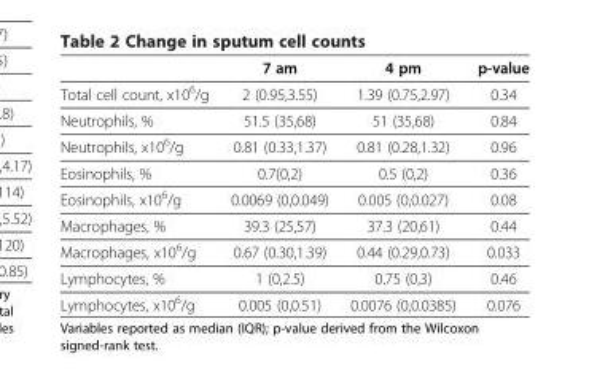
<table><thead><tr><td></td><td>7 am</td><td>4 pm</td><td>p-value</td></tr></thead><tbody><tr><td>Total cell count, x10<sup>6</sup>/g</td><td>2 (0.95,3.55)</td><td>1.39 (0.75,2.97)</td><td>0.34</td></tr><tr><td>Neutrophils, %</td><td>51.5 (35,68)</td><td>51 (35,68)</td><td>0.84</td></tr><tr><td>Neutrophils, x10<sup>6</sup>/g</td><td>0.81 (0.33,1.37)</td><td>0.81 (0.28,1.32)</td><td>0.96</td></tr><tr><td>Eosinophils, %</td><td>0.7(0,2)</td><td>0.5 (0,2)</td><td>0.36</td></tr><tr><td>Eosinophils, x10<sup>6</sup>/g</td><td>0.0069 (0,0.049)</td><td>0.005 (0,0.027)</td><td>0.08</td></tr><tr><td>Macrophages, %</td><td>39.3 (25,57)</td><td>37.3 (20,61)</td><td>0.44</td></tr><tr><td>Macrophages, x10<sup>6</sup>/g</td><td>0.67 (0.30,1.39)</td><td>0.44 (0.29,0.73)</td><td>0.033</td></tr><tr><td>Lymphocytes, %</td><td>1 (0,2.5)</td><td>0.75 (0,3)</td><td>0.46</td></tr><tr><td>Lymphocytes, x10<sup>6</sup>/g</td><td>0.005 (0,0.51)</td><td>0.0076 (0,0.0385)</td><td>0.076</td></tr></tbody></table>